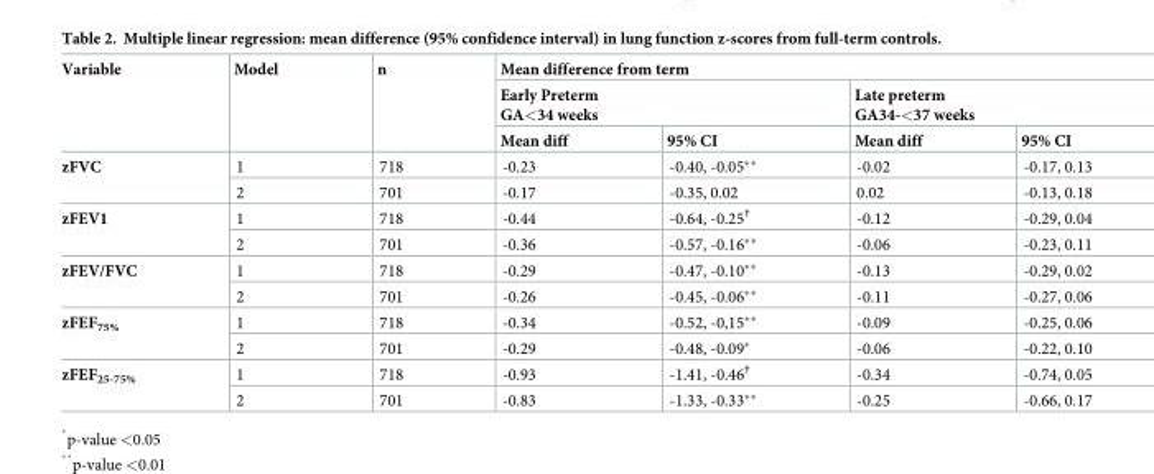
<table><thead><tr><td rowspan="3">Variable</td><td rowspan="3">Model</td><td rowspan="3">n</td><td colspan="4">Mean difference from term</td></tr><tr><td colspan="2">Early Preterm GA&lt;34 weeks</td><td colspan="2">Late preterm GA34-&lt;37 weeks</td></tr><tr><td>Mean diff</td><td>95% CI</td><td>Mean diff</td><td>95% CI</td></tr></thead><tbody><tr><td rowspan="2">zFVC</td><td>1</td><td>718</td><td>-0.23</td><td>-0.40, -0.05**</td><td>-0.02</td><td>-0.17, 0.13</td></tr><tr><td>2</td><td>701</td><td>-0.17</td><td>-0.35, 0.02</td><td>0.02</td><td>-0.13, 0.18</td></tr><tr><td rowspan="2">zFEV1</td><td>1</td><td>718</td><td>-0.44</td><td>-0.64, -0.25<sup>†</sup></td><td>-0.12</td><td>-0.29, 0.04</td></tr><tr><td>2</td><td>701</td><td>-0.36</td><td>-0.57, -0.16**</td><td>-0.06</td><td>-0.23, 0.11</td></tr><tr><td rowspan="2">zFEV/FVC</td><td>1</td><td>718</td><td>-0.29</td><td>-0.47, -0.10**</td><td>-0.13</td><td>-0.29, 0.02</td></tr><tr><td>2</td><td>701</td><td>-0.26</td><td>-0.45, -0.06**</td><td>-0.11</td><td>-0.27, 0.06</td></tr><tr><td rowspan="2">zFEF<sub>75%</sub></td><td>1</td><td>718</td><td>-0.34</td><td>-0.52, -0,15**</td><td>-0.09</td><td>-0.25, 0.06</td></tr><tr><td>2</td><td>701</td><td>-0.29</td><td>-0.48, -0.09*</td><td>-0.06</td><td>-0.22, 0.10</td></tr><tr><td rowspan="2">zFEF<sub>25-75%</sub></td><td>1</td><td>718</td><td>-0.93</td><td>-1.41, -0.46<sup>†</sup></td><td>-0.34</td><td>-0.74, 0.05</td></tr><tr><td>2</td><td>701</td><td>-0.83</td><td>-1.33, -0.33**</td><td>-0.25</td><td>-0.66, 0.17</td></tr></tbody></table>